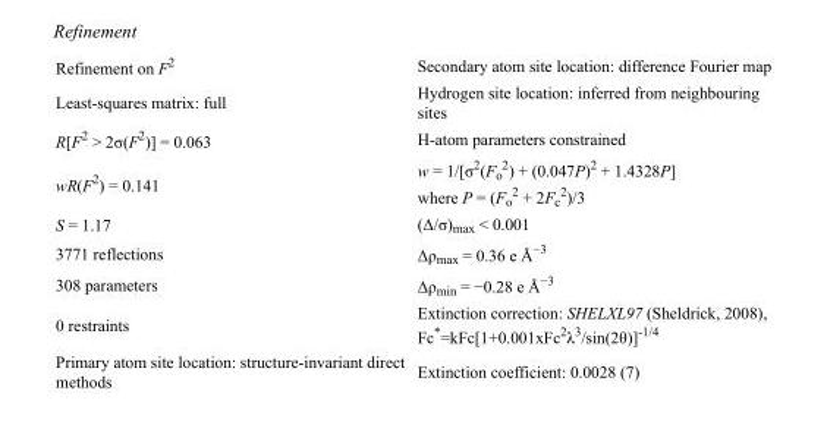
<table><tbody><tr><td>Refinement on F<sup>2</sup></td><td>Secondary atom site location: difference Fourier map</td></tr><tr><td>Least-squares matrix: full</td><td>Hydrogen site location: inferred from neighbouring sites</td></tr><tr><td>R[F<sup>2</sup> &gt; 2σ(F<sup>2</sup>)] = 0.063</td><td>H-atom parameters constrained</td></tr><tr><td>wR(F<sup>2</sup>) = 0.141</td><td>w = 1/[σ<sup>2</sup>(F<sub>o</sub> <sup>2</sup>) + (0.047P)<sup>2</sup> + 1.4328P] where P = (F<sub>o</sub> <sup>2</sup> + 2F<sub>c</sub> <sup>2</sup>)/3</td></tr><tr><td>S = 1.17</td><td>(Δ/σ)<sub>max</sub> &lt; 0.001</td></tr><tr><td>3771 reflections</td><td>Δρ<sub>max</sub> = 0.36 e Å<sup>−3</sup></td></tr><tr><td>308 parameters</td><td>Δρ<sub>min</sub> = −0.28 e Å<sup>−3</sup></td></tr><tr><td>0 restraints</td><td>Extinction correction: SHELXL97 (Sheldrick, 2008), Fc*=kFc[1+0.001xFc<sup>2</sup>λ<sup>3</sup>/sin(2θ)]<sup>-1/4</sup></td></tr><tr><td>Primary atom site location: structure-invariant direct methods</td><td>Extinction coefficient: 0.0028 (7)</td></tr></tbody></table>